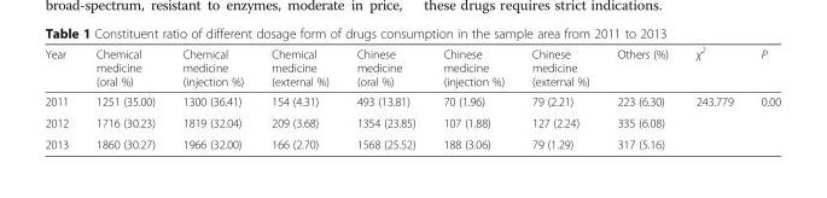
<table><thead><tr><td>Year</td><td>Chemical medicine (oral %)</td><td>Chemical medicine (injection %)</td><td>Chemical medicine (external %)</td><td>Chinese medicine (oral %)</td><td>Chinese medicine (injection %)</td><td>Chinese medicine (external %)</td><td>Others (%)</td><td>χ<sup>2</sup></td><td>P</td></tr></thead><tbody><tr><td>2011</td><td>1251 (35.00)</td><td>1300 (36.41)</td><td>154 (4.31)</td><td>493 (13.81)</td><td>70 (1.96)</td><td>79 (2.21)</td><td>223 (6.30)</td><td rowspan="3">243.779</td><td rowspan="3">0.00</td></tr><tr><td>2012</td><td>1716 (30.23)</td><td>1819 (32.04)</td><td>209 (3.68)</td><td>1354 (23.85)</td><td>107 (1.88)</td><td>127 (2.24)</td><td>335 (6.08)</td></tr><tr><td>2013</td><td>1860 (30.27)</td><td>1966 (32.00)</td><td>166 (2.70)</td><td>1568 (25.52)</td><td>188 (3.06)</td><td>79 (1.29)</td><td>317 (5.16)</td></tr></tbody></table>